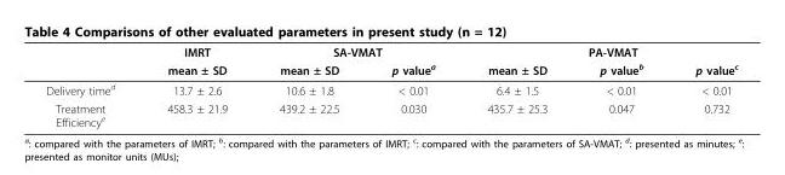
<table><thead><tr><td rowspan="2"></td><td rowspan="2">IMRT mean ± SD</td><td colspan="2">SA-VMAT</td><td colspan="3">PA-VMAT</td></tr><tr><td>mean ± SD</td><td>p value<sup>a</sup></td><td>mean ± SD</td><td>p value<sup>b</sup></td><td>p value<sup>c</sup></td></tr></thead><tbody><tr><td>Delivery time<sup>d</sup></td><td>13.7 ± 2.6</td><td>10.6 ± 1.8</td><td>&lt; 0.01</td><td>6.4 ± 1.5</td><td>&lt; 0.01</td><td>&lt; 0.01</td></tr><tr><td>Treatment Efficiency<sup>e</sup></td><td>458.3 ± 21.9</td><td>439.2 ± 22.5</td><td>0.030</td><td>435.7 ± 25.3</td><td>0.047</td><td>0.732</td></tr></tbody></table>